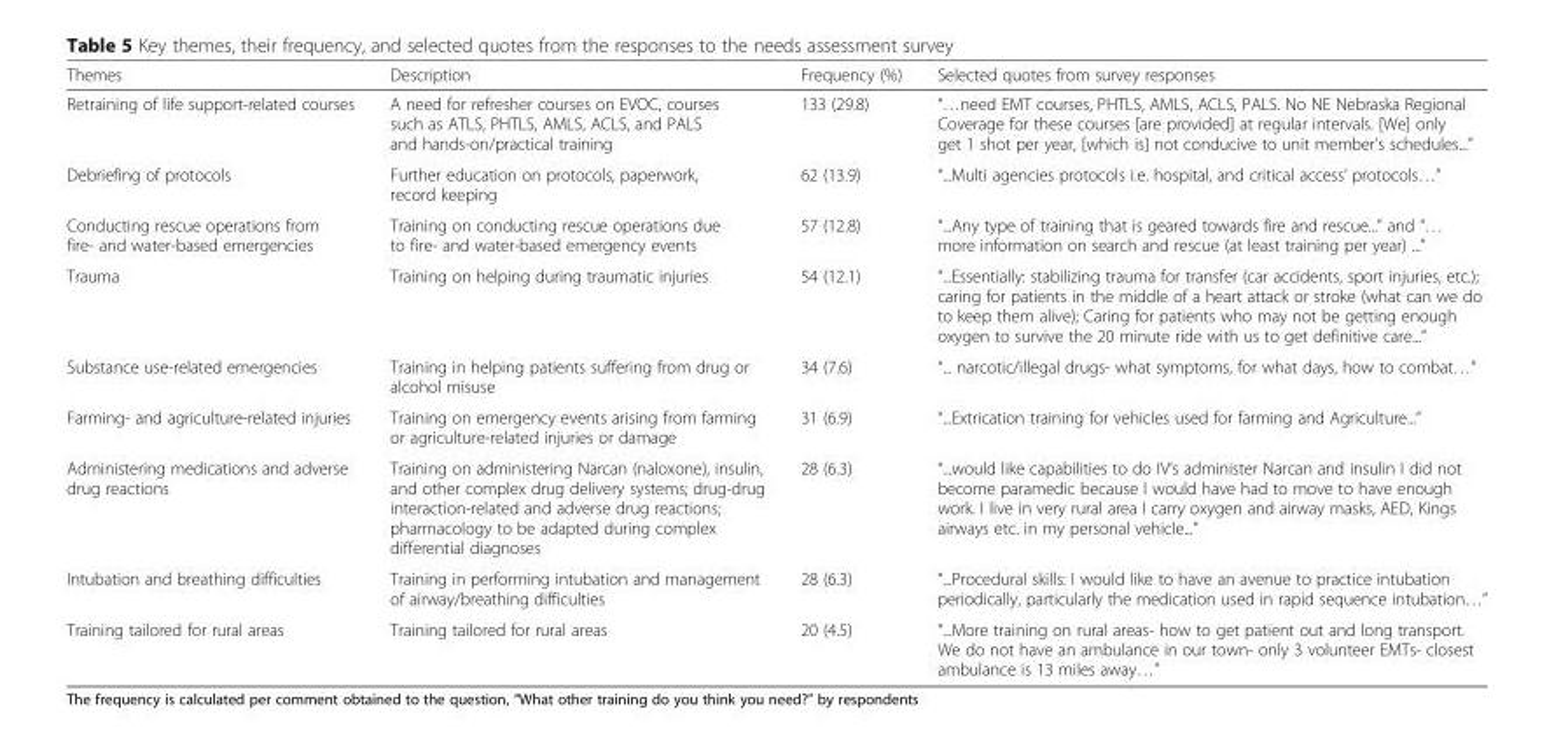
<table><thead><tr><td>Themes</td><td>Description</td><td>Frequency (%)</td><td>Selected quotes from survey responses</td></tr></thead><tbody><tr><td>Retraining of life support-related courses</td><td>A need for refresher courses on EVOC, courses such as ATLS, PHTLS, AMLS, ACLS, and PALS and hands-on/practical training</td><td>133 (29.8)</td><td>“…need EMT courses, PHTLS, AMLS, ACLS, PALS. No NE Nebraska Regional Coverage for these courses [are provided] at regular intervals. [We] only get 1 shot per year, [which is] not conducive to unit member’s schedules...”</td></tr><tr><td>Debriefing of protocols</td><td>Further education on protocols, paperwork, record keeping</td><td>62 (13.9)</td><td>“...Multi agencies protocols i.e. hospital, and critical access’ protocols…”</td></tr><tr><td>Conducting rescue operations from fire- and water-based emergencies</td><td>Training on conducting rescue operations due to fire- and water-based emergency events</td><td>57 (12.8)</td><td>“...Any type of training that is geared towards fire and rescue...” and “… more information on search and rescue (at least training per year) ...”</td></tr><tr><td>Trauma</td><td>Training on helping during traumatic injuries</td><td>54 (12.1)</td><td>“...Essentially: stabilizing trauma for transfer (car accidents, sport injuries, etc.); caring for patients in the middle of a heart attack or stroke (what can we do to keep them alive); Caring for patients who may not be getting enough oxygen to survive the 20 minute ride with us to get definitive care...”</td></tr><tr><td>Substance use-related emergencies</td><td>Training in helping patients suffering from drug or alcohol misuse</td><td>34 (7.6)</td><td>“... narcotic/illegal drugs- what symptoms, for what days, how to combat…”</td></tr><tr><td>Farming- and agriculture-related injuries</td><td>Training on emergency events arising from farming or agriculture-related injuries or damage</td><td>31 (6.9)</td><td>“...Extrication training for vehicles used for farming and Agriculture...”</td></tr><tr><td>Administering medications and adverse drug reactions</td><td>Training on administering Narcan (naloxone), insulin, and other complex drug delivery systems; drug-drug interaction-related and adverse drug reactions; pharmacology to be adapted during complex differential diagnoses</td><td>28 (6.3)</td><td>“...would like capabilities to do IV’s administer Narcan and insulin I did not become paramedic because I would have had to move to have enough work. I live in very rural area I carry oxygen and airway masks, AED, Kings airways etc. in my personal vehicle...”</td></tr><tr><td>Intubation and breathing difficulties</td><td>Training in performing intubation and management of airway/breathing difficulties</td><td>28 (6.3)</td><td>“...Procedural skills: I would like to have an avenue to practice intubation periodically, particularly the medication used in rapid sequence intubation…”</td></tr><tr><td>Training tailored for rural areas</td><td>Training tailored for rural areas</td><td>20 (4.5)</td><td>“...More training on rural areas- how to get patient out and long transport. We do not have an ambulance in our town- only 3 volunteer EMTs- closest ambulance is 13 miles away…”</td></tr></tbody></table>